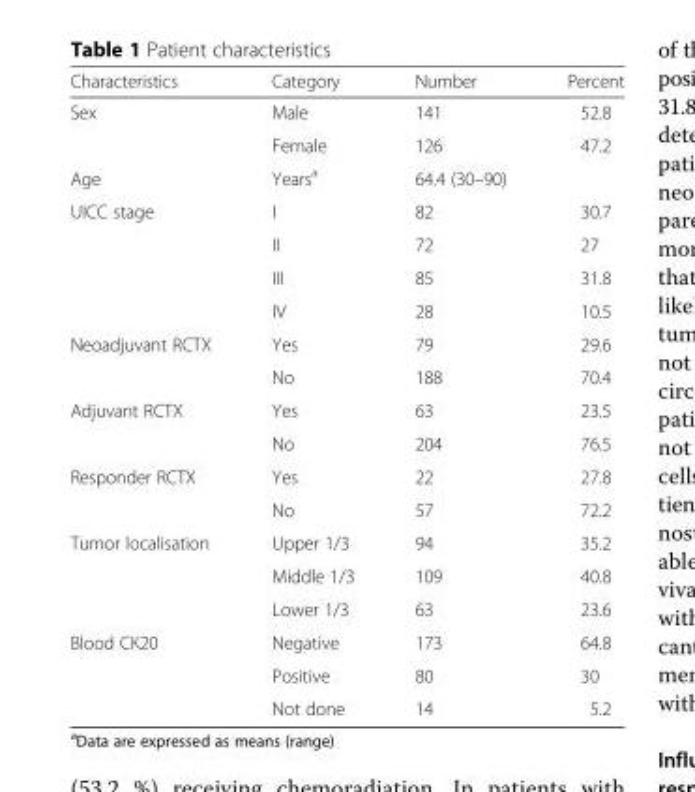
<table><thead><tr><td>Characteristics</td><td>Category</td><td>Number</td><td>Percent</td></tr></thead><tbody><tr><td rowspan="2">Sex</td><td>Male</td><td>141</td><td>52.8</td></tr><tr><td>Female</td><td>126</td><td>47.2</td></tr><tr><td>Age</td><td>Years<sup>a</sup></td><td>64.4 (30–90)</td><td></td></tr><tr><td rowspan="4">UICC stage</td><td>I</td><td>82</td><td>30.7</td></tr><tr><td>II</td><td>72</td><td>27</td></tr><tr><td>III</td><td>85</td><td>31.8</td></tr><tr><td>IV</td><td>28</td><td>10.5</td></tr><tr><td rowspan="2">Neoadjuvant RCTX</td><td>Yes</td><td>79</td><td>29.6</td></tr><tr><td>No</td><td>188</td><td>70.4</td></tr><tr><td rowspan="2">Adjuvant RCTX</td><td>Yes</td><td>63</td><td>23.5</td></tr><tr><td>No</td><td>204</td><td>76.5</td></tr><tr><td rowspan="2">Responder RCTX</td><td>Yes</td><td>22</td><td>27.8</td></tr><tr><td>No</td><td>57</td><td>72.2</td></tr><tr><td rowspan="3">Tumor localisation</td><td>Upper 1/3</td><td>94</td><td>35.2</td></tr><tr><td>Middle 1/3</td><td>109</td><td>40.8</td></tr><tr><td>Lower 1/3</td><td>63</td><td>23.6</td></tr><tr><td rowspan="3">Blood CK20</td><td>Negative</td><td>173</td><td>64.8</td></tr><tr><td>Positive</td><td>80</td><td>30</td></tr><tr><td>Not done</td><td>14</td><td>5.2</td></tr></tbody></table>